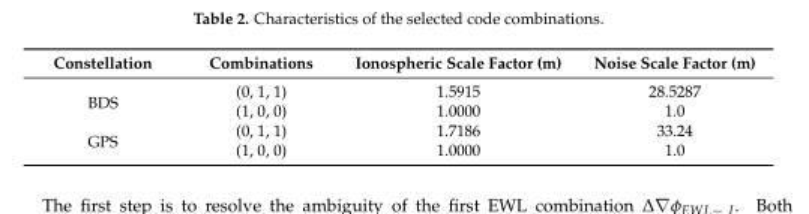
<table><thead><tr><td>Constellation</td><td>Combinations</td><td>Ionospheric Scale Factor (m)</td><td>Noise Scale Factor (m)</td></tr></thead><tbody><tr><td rowspan="2">BDS</td><td>(0, 1, 1)</td><td>1.5915</td><td>28.5287</td></tr><tr><td>(1, 0, 0)</td><td>1.0000</td><td>1.0</td></tr><tr><td rowspan="2">GPS</td><td>(0, 1, 1)</td><td>1.7186</td><td>33.24</td></tr><tr><td>(1, 0, 0)</td><td>1.0000</td><td>1.0</td></tr></tbody></table>